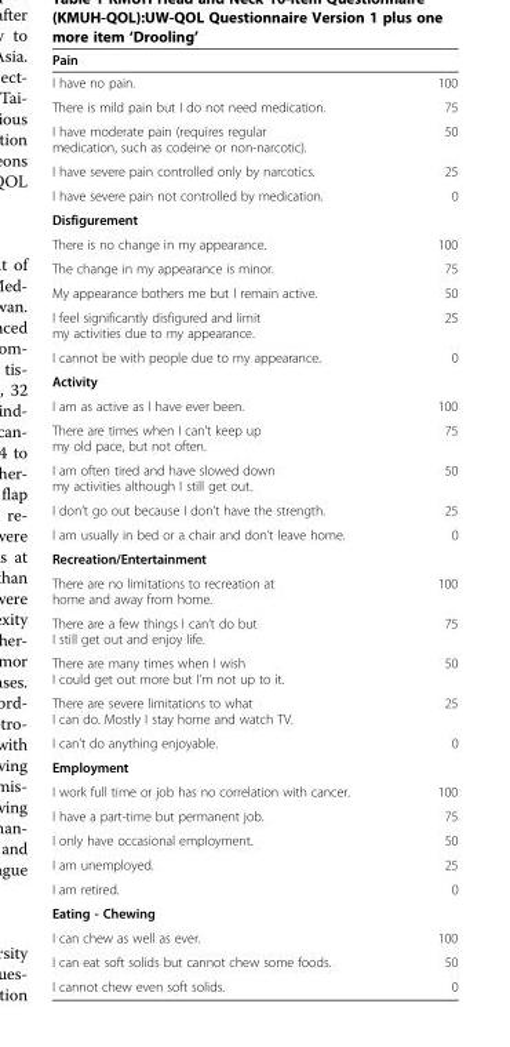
<table><thead><tr><td colspan="2">Pain</td></tr><tr><td>I have no pain.</td><td>100</td></tr></thead><tbody><tr><td>There is mild pain but I do not need medication.</td><td>75</td></tr><tr><td>I have moderate pain (requires regular medication, such as codeine or non-narcotic).</td><td>50</td></tr><tr><td>I have severe pain controlled only by narcotics.</td><td>25</td></tr><tr><td>I have severe pain not controlled by medication.</td><td>0</td></tr><tr><td colspan="2">Disfigurement</td></tr><tr><td>There is no change in my appearance.</td><td>100</td></tr><tr><td>The change in my appearance is minor.</td><td>75</td></tr><tr><td>My appearance bothers me but I remain active.</td><td>50</td></tr><tr><td>I feel significantly disfigured and limit my activities due to my appearance.</td><td>25</td></tr><tr><td>I cannot be with people due to my appearance.</td><td>0</td></tr><tr><td colspan="2">Activity</td></tr><tr><td>I am as active as I have ever been.</td><td>100</td></tr><tr><td>There are times when I can’t keep up my old pace, but not often.</td><td>75</td></tr><tr><td>I am often tired and have slowed down my activities although I still get out.</td><td>50</td></tr><tr><td>I don’t go out because I don’t have the strength.</td><td>25</td></tr><tr><td>I am usually in bed or a chair and don’t leave home.</td><td>0</td></tr><tr><td colspan="2">Recreation/Entertainment</td></tr><tr><td>There are no limitations to recreation at home and away from home.</td><td>100</td></tr><tr><td>There are a few things I can’t do but I still get out and enjoy life.</td><td>75</td></tr><tr><td>There are many times when I wish I could get out more but I’m not up to it.</td><td>50</td></tr><tr><td>There are severe limitations to what I can do. Mostly I stay home and watch TV.</td><td>25</td></tr><tr><td>I can’t do anything enjoyable.</td><td>0</td></tr><tr><td colspan="2">Employment</td></tr><tr><td>I work full time or job has no correlation with cancer.</td><td>100</td></tr><tr><td>I have a part-time but permanent job.</td><td>75</td></tr><tr><td>I only have occasional employment.</td><td>50</td></tr><tr><td>I am unemployed.</td><td>25</td></tr><tr><td>I am retired.</td><td>0</td></tr><tr><td colspan="2">Eating - Chewing</td></tr><tr><td>I can chew as well as ever.</td><td>100</td></tr><tr><td>I can eat soft solids but cannot chew some foods.</td><td>50</td></tr><tr><td>I cannot chew even soft solids.</td><td>0</td></tr></tbody></table>